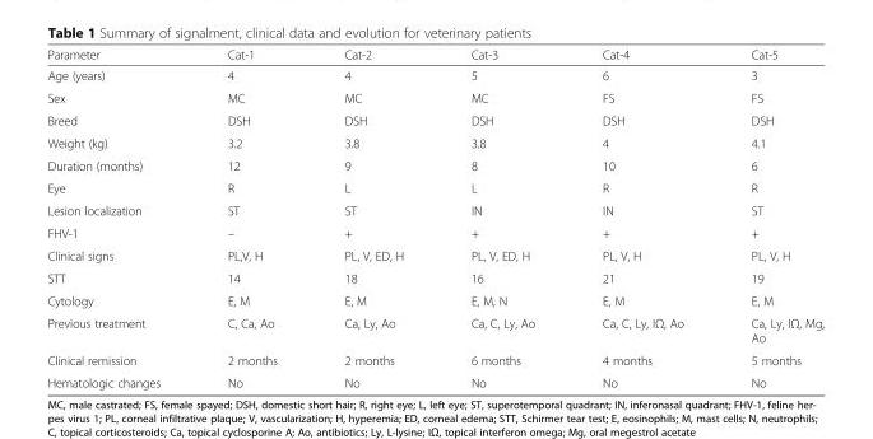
<table><thead><tr><td>Parameter</td><td>Cat-1</td><td>Cat-2</td><td>Cat-3</td><td>Cat-4</td><td>Cat-5</td></tr></thead><tbody><tr><td>Age (years)</td><td>4</td><td>4</td><td>5</td><td>6</td><td>3</td></tr><tr><td>Sex</td><td>MC</td><td>MC</td><td>MC</td><td>FS</td><td>FS</td></tr><tr><td>Breed</td><td>DSH</td><td>DSH</td><td>DSH</td><td>DSH</td><td>DSH</td></tr><tr><td>Weight (kg)</td><td>3.2</td><td>3.8</td><td>3.8</td><td>4</td><td>4.1</td></tr><tr><td>Duration (months)</td><td>12</td><td>9</td><td>8</td><td>10</td><td>6</td></tr><tr><td>Eye</td><td>R</td><td>L</td><td>L</td><td>R</td><td>R</td></tr><tr><td>Lesion localization</td><td>ST</td><td>ST</td><td>IN</td><td>IN</td><td>ST</td></tr><tr><td>FHV-1</td><td>–</td><td>+</td><td>+</td><td>+</td><td>+</td></tr><tr><td>Clinical signs</td><td>PL,V, H</td><td>PL, V, ED, H</td><td>PL, V, ED, H</td><td>PL, V, H</td><td>PL, V, H</td></tr><tr><td>STT</td><td>14</td><td>18</td><td>16</td><td>21</td><td>19</td></tr><tr><td>Cytology</td><td>E, M</td><td>E, M</td><td>E, M, N</td><td>E, M</td><td>E, M</td></tr><tr><td>Previous treatment</td><td>C, Ca, Ao</td><td>Ca, Ly, Ao</td><td>Ca, C, Ly, Ao</td><td>Ca, C, Ly, IΩ, Ao</td><td>Ca, Ly, IΩ, Mg, Ao</td></tr><tr><td>Clinical remission</td><td>2 months</td><td>2 months</td><td>6 months</td><td>4 months</td><td>5 months</td></tr><tr><td>Hematologic changes</td><td>No</td><td>No</td><td>No</td><td>No</td><td>No</td></tr></tbody></table>